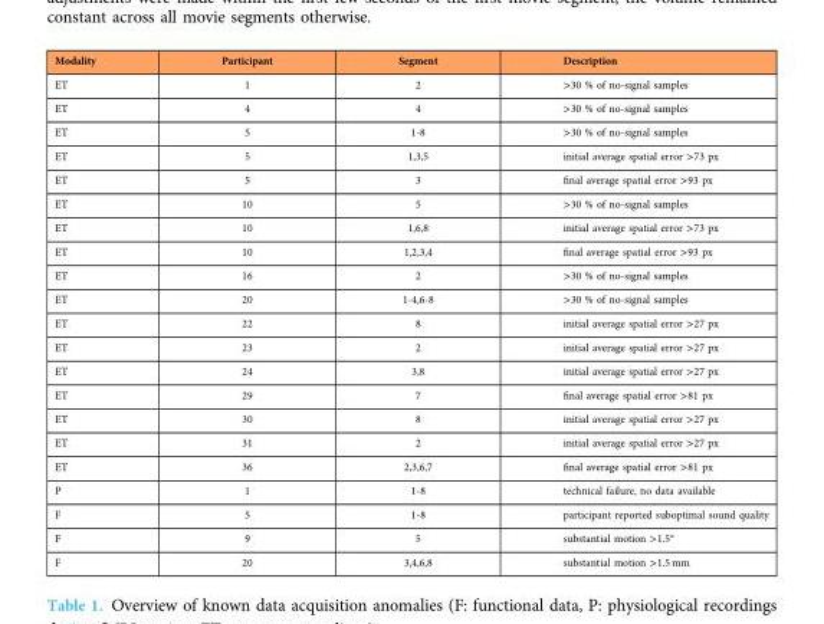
<table><thead><tr><td>Modality</td><td>Participant</td><td>Segment</td><td>Description</td></tr></thead><tbody><tr><td>ET</td><td>1</td><td>2</td><td>&gt;30 % of no-signal samples</td></tr><tr><td>ET</td><td>4</td><td>4</td><td>&gt;30 % of no-signal samples</td></tr><tr><td>ET</td><td>5</td><td>1-8</td><td>&gt;30 % of no-signal samples</td></tr><tr><td>ET</td><td>5</td><td>1,3,5</td><td>initial average spatial error &gt;73 px</td></tr><tr><td>ET</td><td>5</td><td>3</td><td>final average spatial error &gt;93 px</td></tr><tr><td>ET</td><td>10</td><td>5</td><td>&gt;30 % of no-signal samples</td></tr><tr><td>ET</td><td>10</td><td>1,6,8</td><td>initial average spatial error &gt;73 px</td></tr><tr><td>ET</td><td>10</td><td>1,2,3,4</td><td>final average spatial error &gt;93 px</td></tr><tr><td>ET</td><td>16</td><td>2</td><td>&gt;30 % of no-signal samples</td></tr><tr><td>ET</td><td>20</td><td>1-4,6-8</td><td>&gt;30 % of no-signal samples</td></tr><tr><td>ET</td><td>22</td><td>8</td><td>initial average spatial error &gt;27 px</td></tr><tr><td>ET</td><td>23</td><td>2</td><td>initial average spatial error &gt;27 px</td></tr><tr><td>ET</td><td>24</td><td>3,8</td><td>initial average spatial error &gt;27 px</td></tr><tr><td>ET</td><td>29</td><td>7</td><td>final average spatial error &gt;81 px</td></tr><tr><td>ET</td><td>30</td><td>8</td><td>initial average spatial error &gt;27 px</td></tr><tr><td>ET</td><td>31</td><td>2</td><td>initial average spatial error &gt;27 px</td></tr><tr><td>ET</td><td>36</td><td>2,3,6,7</td><td>final average spatial error &gt;81 px</td></tr><tr><td>P</td><td>1</td><td>1-8</td><td>technical failure, no data available</td></tr><tr><td>F</td><td>5</td><td>1-8</td><td>participant reported suboptimal sound quality</td></tr><tr><td>F</td><td>9</td><td>5</td><td>substantial motion &gt;1.5°</td></tr><tr><td>F</td><td>20</td><td>3,4,6,8</td><td>substantial motion &gt;1.5 mm</td></tr></tbody></table>